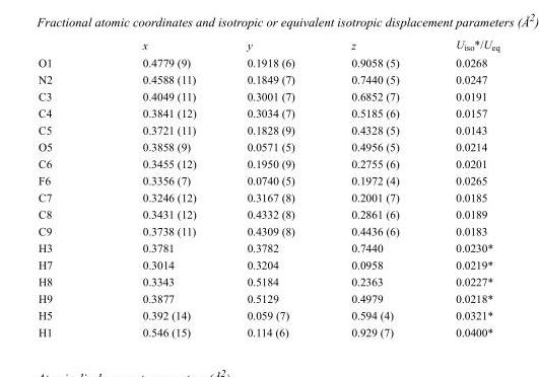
<table><thead><tr><td></td><td>x</td><td>y</td><td>z</td><td>U<sub>iso</sub>*/U<sub>eq</sub></td></tr></thead><tbody><tr><td>O1</td><td>0.4779 (9)</td><td>0.1918 (6)</td><td>0.9058 (5)</td><td>0.0268</td></tr><tr><td>N2</td><td>0.4588 (11)</td><td>0.1849 (7)</td><td>0.7440 (5)</td><td>0.0247</td></tr><tr><td>C3</td><td>0.4049 (11)</td><td>0.3001 (7)</td><td>0.6852 (7)</td><td>0.0191</td></tr><tr><td>C4</td><td>0.3841 (12)</td><td>0.3034 (7)</td><td>0.5185 (6)</td><td>0.0157</td></tr><tr><td>C5</td><td>0.3721 (11)</td><td>0.1828 (9)</td><td>0.4328 (5)</td><td>0.0143</td></tr><tr><td>O5</td><td>0.3858 (9)</td><td>0.0571 (5)</td><td>0.4956 (5)</td><td>0.0214</td></tr><tr><td>C6</td><td>0.3455 (12)</td><td>0.1950 (9)</td><td>0.2755 (6)</td><td>0.0201</td></tr><tr><td>F6</td><td>0.3356 (7)</td><td>0.0740 (5)</td><td>0.1972 (4)</td><td>0.0265</td></tr><tr><td>C7</td><td>0.3246 (12)</td><td>0.3167 (8)</td><td>0.2001 (7)</td><td>0.0185</td></tr><tr><td>C8</td><td>0.3431 (12)</td><td>0.4332 (8)</td><td>0.2861 (6)</td><td>0.0189</td></tr><tr><td>C9</td><td>0.3738 (11)</td><td>0.4309 (8)</td><td>0.4436 (6)</td><td>0.0183</td></tr><tr><td>H3</td><td>0.3781</td><td>0.3782</td><td>0.7440</td><td>0.0230*</td></tr><tr><td>H7</td><td>0.3014</td><td>0.3204</td><td>0.0958</td><td>0.0219*</td></tr><tr><td>H8</td><td>0.3343</td><td>0.5184</td><td>0.2363</td><td>0.0227*</td></tr><tr><td>H9</td><td>0.3877</td><td>0.5129</td><td>0.4979</td><td>0.0218*</td></tr><tr><td>H5</td><td>0.392 (14)</td><td>0.059 (7)</td><td>0.594 (4)</td><td>0.0321*</td></tr><tr><td>H1</td><td>0.546 (15)</td><td>0.114 (6)</td><td>0.929 (7)</td><td>0.0400*</td></tr></tbody></table>